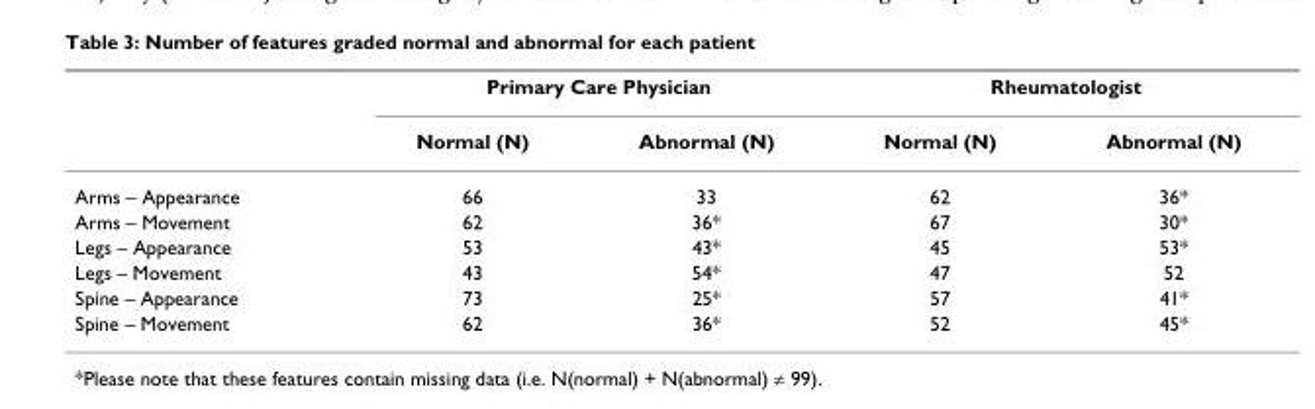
<table><thead><tr><td rowspan="2"></td><td colspan="2">Primary Care Physician</td><td colspan="2">Rheumatologist</td></tr><tr><td>Normal (N)</td><td>Abnormal (N)</td><td>Normal (N)</td><td>Abnormal (N)</td></tr></thead><tbody><tr><td>Arms – Appearance</td><td>66</td><td>33</td><td>62</td><td>36*</td></tr><tr><td>Arms – Movement</td><td>62</td><td>36*</td><td>67</td><td>30*</td></tr><tr><td>Legs – Appearance</td><td>53</td><td>43*</td><td>45</td><td>53*</td></tr><tr><td>Legs – Movement</td><td>43</td><td>54*</td><td>47</td><td>52</td></tr><tr><td>Spine – Appearance</td><td>73</td><td>25*</td><td>57</td><td>41*</td></tr><tr><td>Spine – Movement</td><td>62</td><td>36*</td><td>52</td><td>45*</td></tr></tbody></table>